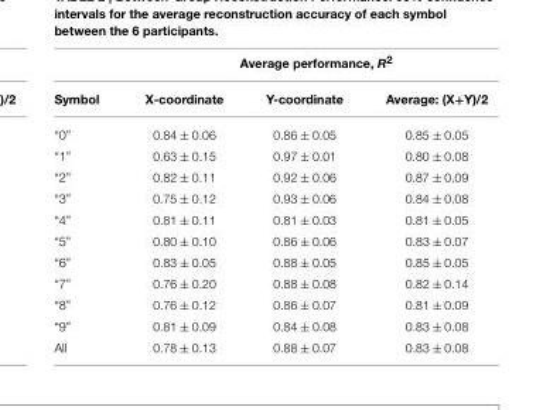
<table><thead><tr><td rowspan="2">Symbol</td><td colspan="3">Average performance, R<sup>2</sup></td></tr><tr><td>X-coordinate</td><td>Y-coordinate</td><td>Average: (X+Y)/2</td></tr></thead><tbody><tr><td>“0”</td><td>0.84 ± 0.06</td><td>0.86 ± 0.05</td><td>0.85 ± 0.05</td></tr><tr><td>“1”</td><td>0.63 ± 0.15</td><td>0.97 ± 0.01</td><td>0.80 ± 0.08</td></tr><tr><td>“2”</td><td>0.82 ± 0.11</td><td>0.92 ± 0.06</td><td>0.87 ± 0.09</td></tr><tr><td>“3”</td><td>0.75 ± 0.12</td><td>0.93 ± 0.06</td><td>0.84 ± 0.08</td></tr><tr><td>“4”</td><td>0.81 ± 0.11</td><td>0.81 ± 0.03</td><td>0.81 ± 0.05</td></tr><tr><td>“5”</td><td>0.80 ± 0.10</td><td>0.86 ± 0.06</td><td>0.83 ± 0.07</td></tr><tr><td>“6”</td><td>0.83 ± 0.05</td><td>0.88 ± 0.05</td><td>0.85 ± 0.05</td></tr><tr><td>“7”</td><td>0.76 ± 0.20</td><td>0.88 ± 0.08</td><td>0.82 ± 0.14</td></tr><tr><td>“8”</td><td>0.76 ± 0.12</td><td>0.86 ± 0.07</td><td>0.81 ± 0.09</td></tr><tr><td>“9”</td><td>0.81 ± 0.09</td><td>0.84 ± 0.08</td><td>0.83 ± 0.08</td></tr><tr><td>All</td><td>0.78 ± 0.13</td><td>0.88 ± 0.07</td><td>0.83 ± 0.08</td></tr></tbody></table>